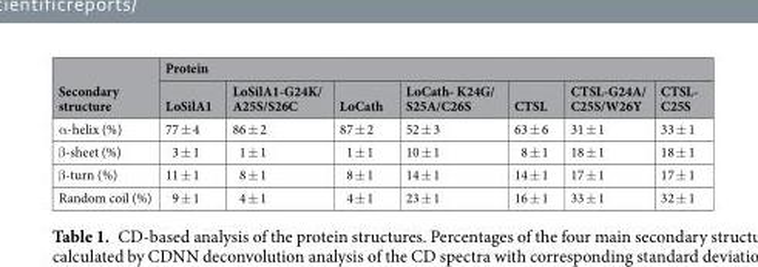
<table><thead><tr><td rowspan="2">Secondary structure</td><td colspan="7">Protein</td></tr><tr><td>LoSilA1</td><td>LoSilA1-G24K/ A25S/S26C</td><td>LoCath</td><td>LoCath- K24G/ S25A/C26S</td><td>CTSL</td><td>CTSL-G24A/ C25S/W26Y</td><td>CTSL- C25S</td></tr></thead><tbody><tr><td>α-helix (%)</td><td>77 ± 4</td><td>86 ± 2</td><td>87 ± 2</td><td>52 ± 3</td><td>63 ± 6</td><td>31 ± 1</td><td>33 ± 1</td></tr><tr><td>β-sheet (%)</td><td>3 ± 1</td><td>1 ± 1</td><td>1 ± 1</td><td>10 ± 1</td><td>8 ± 1</td><td>18 ± 1</td><td>18 ± 1</td></tr><tr><td>β-turn (%)</td><td>11 ± 1</td><td>8 ± 1</td><td>8 ± 1</td><td>14 ± 1</td><td>14 ± 1</td><td>17 ± 1</td><td>17 ± 1</td></tr><tr><td>Random coil (%)</td><td>9 ± 1</td><td>4 ± 1</td><td>4 ± 1</td><td>23 ± 1</td><td>16 ± 1</td><td>33 ± 1</td><td>32 ± 1</td></tr></tbody></table>